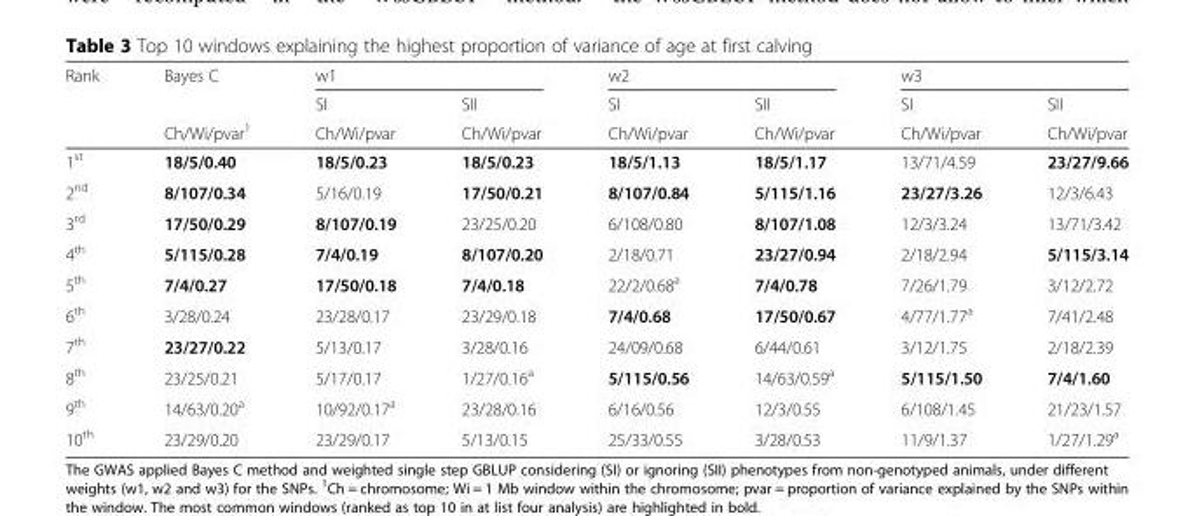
<table><thead><tr><td rowspan="3">Rank</td><td rowspan="3">Bayes C Ch/Wi/pvar<sup>1</sup></td><td colspan="2">w1</td><td colspan="2">w2</td><td colspan="2">w3</td></tr><tr><td rowspan="2">SI Ch/Wi/pvar</td><td rowspan="2">SII Ch/Wi/pvar</td><td rowspan="2">SI Ch/Wi/pvar</td><td rowspan="2">SII Ch/Wi/pvar</td><td rowspan="2">SI Ch/Wi/pvar</td><td rowspan="2">SII Ch/Wi/pvar</td></tr><tr></tr></thead><tbody><tr><td>1<sup>st</sup></td><td>18/5/0.40</td><td>18/5/0.23</td><td>18/5/0.23</td><td>18/5/1.13</td><td>18/5/1.17</td><td>13/71/4.59</td><td>23/27/9.66</td></tr><tr><td>2<sup>nd</sup></td><td>8/107/0.34</td><td>5/16/0.19</td><td>17/50/0.21</td><td>8/107/0.84</td><td>5/115/1.16</td><td>23/27/3.26</td><td>12/3/6.43</td></tr><tr><td>3<sup>rd</sup></td><td>17/50/0.29</td><td>8/107/0.19</td><td>23/25/0.20</td><td>6/108/0.80</td><td>8/107/1.08</td><td>12/3/3.24</td><td>13/71/3.42</td></tr><tr><td>4<sup>th</sup></td><td>5/115/0.28</td><td>7/4/0.19</td><td>8/107/0.20</td><td>2/18/0.71</td><td>23/27/0.94</td><td>2/18/2.94</td><td>5/115/3.14</td></tr><tr><td>5<sup>th</sup></td><td>7/4/0.27</td><td>17/50/0.18</td><td>7/4/0.18</td><td>22/2/0.68<sup>a</sup></td><td>7/4/0.78</td><td>7/26/1.79</td><td>3/12/2.72</td></tr><tr><td>6<sup>th</sup></td><td>3/28/0.24</td><td>23/28/0.17</td><td>23/29/0.18</td><td>7/4/0.68</td><td>17/50/0.67</td><td>4/77/1.77<sup>a</sup></td><td>7/41/2.48</td></tr><tr><td>7<sup>th</sup></td><td>23/27/0.22</td><td>5/13/0.17</td><td>3/28/0.16</td><td>24/09/0.68</td><td>6/44/0.61</td><td>3/12/1.75</td><td>2/18/2.39</td></tr><tr><td>8<sup>th</sup></td><td>23/25/0.21</td><td>5/17/0.17</td><td>1/27/0.16<sup>a</sup></td><td>5/115/0.56</td><td>14/63/0.59<sup>a</sup></td><td>5/115/1.50</td><td>7/4/1.60</td></tr><tr><td>9<sup>th</sup></td><td>14/63/0.20<sup>a</sup></td><td>10/92/0.17<sup>a</sup></td><td>23/28/0.16</td><td>6/16/0.56</td><td>12/3/0.55</td><td>6/108/1.45</td><td>21/23/1.57</td></tr><tr><td>10<sup>th</sup></td><td>23/29/0.20</td><td>23/29/0.17</td><td>5/13/0.15</td><td>25/33/0.55</td><td>3/28/0.53</td><td>11/9/1.37</td><td>1/27/1.29<sup>a</sup></td></tr></tbody></table>